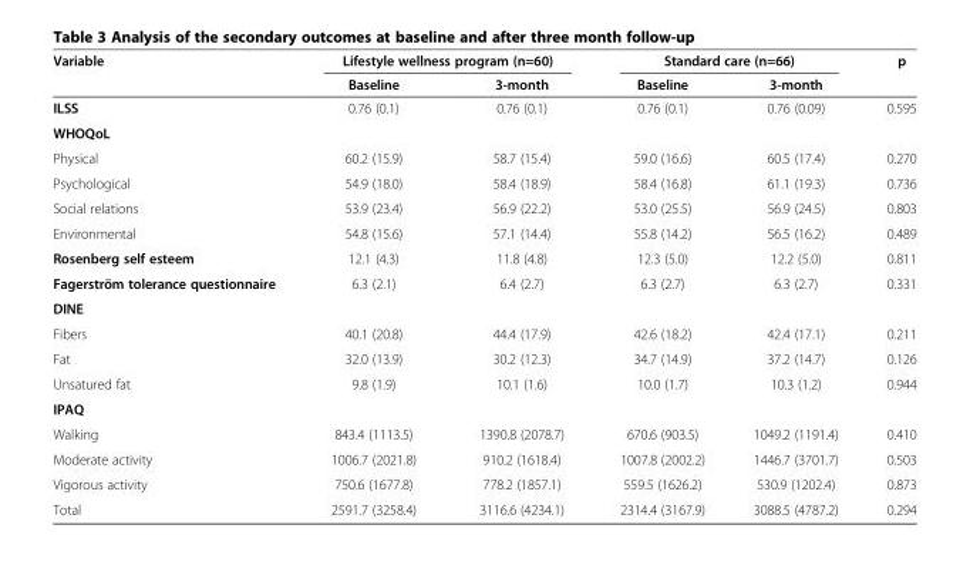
<table><thead><tr><td rowspan="2">Variable</td><td colspan="2">Lifestyle wellness program (n=60)</td><td colspan="2">Standard care (n=66)</td><td rowspan="2">p</td></tr><tr><td>Baseline</td><td>3-month</td><td>Baseline</td><td>3-month</td></tr></thead><tbody><tr><td>ILSS</td><td>0.76 (0.1)</td><td>0.76 (0.1)</td><td>0.76 (0.1)</td><td>0.76 (0.09)</td><td>0.595</td></tr><tr><td colspan="6">WHOQoL</td></tr><tr><td>Physical</td><td>60.2 (15.9)</td><td>58.7 (15.4)</td><td>59.0 (16.6)</td><td>60.5 (17.4)</td><td>0.270</td></tr><tr><td>Psychological</td><td>54.9 (18.0)</td><td>58.4 (18.9)</td><td>58.4 (16.8)</td><td>61.1 (19.3)</td><td>0.736</td></tr><tr><td>Social relations</td><td>53.9 (23.4)</td><td>56.9 (22.2)</td><td>53.0 (25.5)</td><td>56.9 (24.5)</td><td>0.803</td></tr><tr><td>Environmental</td><td>54.8 (15.6)</td><td>57.1 (14.4)</td><td>55.8 (14.2)</td><td>56.5 (16.2)</td><td>0.489</td></tr><tr><td>Rosenberg self esteem</td><td>12.1 (4.3)</td><td>11.8 (4.8)</td><td>12.3 (5.0)</td><td>12.2 (5.0)</td><td>0.811</td></tr><tr><td>Fagerström tolerance questionnaire</td><td>6.3 (2.1)</td><td>6.4 (2.7)</td><td>6.3 (2.7)</td><td>6.3 (2.7)</td><td>0.331</td></tr><tr><td colspan="6">DINE</td></tr><tr><td>Fibers</td><td>40.1 (20.8)</td><td>44.4 (17.9)</td><td>42.6 (18.2)</td><td>42.4 (17.1)</td><td>0.211</td></tr><tr><td>Fat</td><td>32.0 (13.9)</td><td>30.2 (12.3)</td><td>34.7 (14.9)</td><td>37.2 (14.7)</td><td>0.126</td></tr><tr><td>Unsatured fat</td><td>9.8 (1.9)</td><td>10.1 (1.6)</td><td>10.0 (1.7)</td><td>10.3 (1.2)</td><td>0.944</td></tr><tr><td colspan="6">IPAQ</td></tr><tr><td>Walking</td><td>843.4 (1113.5)</td><td>1390.8 (2078.7)</td><td>670.6 (903.5)</td><td>1049.2 (1191.4)</td><td>0.410</td></tr><tr><td>Moderate activity</td><td>1006.7 (2021.8)</td><td>910.2 (1618.4)</td><td>1007.8 (2002.2)</td><td>1446.7 (3701.7)</td><td>0.503</td></tr><tr><td>Vigorous activity</td><td>750.6 (1677.8)</td><td>778.2 (1857.1)</td><td>559.5 (1626.2)</td><td>530.9 (1202.4)</td><td>0.873</td></tr><tr><td>Total</td><td>2591.7 (3258.4)</td><td>3116.6 (4234.1)</td><td>2314.4 (3167.9)</td><td>3088.5 (4787.2)</td><td>0.294</td></tr></tbody></table>